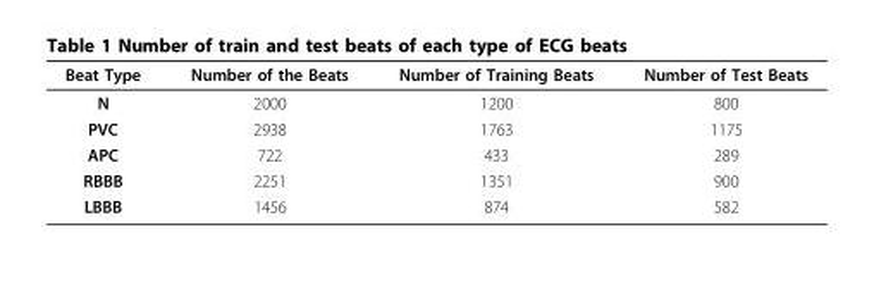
<table><thead><tr><td>Beat Type</td><td>Number of the Beats</td><td>Number of Training Beats</td><td>Number of Test Beats</td></tr></thead><tbody><tr><td>N</td><td>2000</td><td>1200</td><td>800</td></tr><tr><td>PVC</td><td>2938</td><td>1763</td><td>1175</td></tr><tr><td>APC</td><td>722</td><td>433</td><td>289</td></tr><tr><td>RBBB</td><td>2251</td><td>1351</td><td>900</td></tr><tr><td>LBBB</td><td>1456</td><td>874</td><td>582</td></tr></tbody></table>